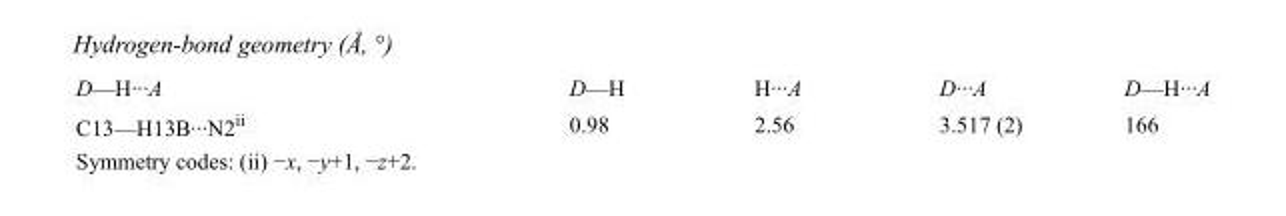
<table><tbody><tr><td>D—H···A</td><td>D—H</td><td>H···A</td><td>D···A</td><td>D—H···A</td></tr><tr><td>C13—H13B···N2<sup>ii</sup></td><td>0.98</td><td>2.56</td><td>3.517 (2)</td><td>166</td></tr></tbody></table>